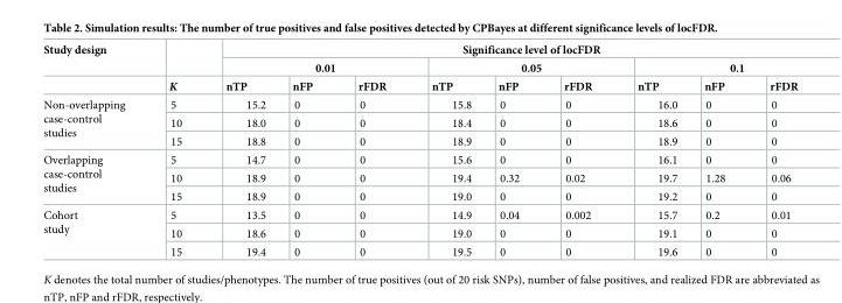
<table><thead><tr><td rowspan="3">Study design</td><td rowspan="3">K</td><td colspan="9">Significance level of locFDR</td></tr><tr><td colspan="3">0.01</td><td colspan="3">0.05</td><td colspan="3">0.1</td></tr><tr><td>nTP</td><td>nFP</td><td>rFDR</td><td>nTP</td><td>nFP</td><td>rFDR</td><td>nTP</td><td>nFP</td><td>rFDR</td></tr></thead><tbody><tr><td rowspan="3">Non-overlapping case-control studies</td><td>5</td><td>15.2</td><td>0</td><td>0</td><td>15.8</td><td>0</td><td>0</td><td>16.0</td><td>0</td><td>0</td></tr><tr><td>10</td><td>18.0</td><td>0</td><td>0</td><td>18.4</td><td>0</td><td>0</td><td>18.6</td><td>0</td><td>0</td></tr><tr><td>15</td><td>18.8</td><td>0</td><td>0</td><td>18.9</td><td>0</td><td>0</td><td>18.9</td><td>0</td><td>0</td></tr><tr><td rowspan="3">Overlapping case-control studies</td><td>5</td><td>14.7</td><td>0</td><td>0</td><td>15.6</td><td>0</td><td>0</td><td>16.1</td><td>0</td><td>0</td></tr><tr><td>10</td><td>18.9</td><td>0</td><td>0</td><td>19.4</td><td>0.32</td><td>0.02</td><td>19.7</td><td>1.28</td><td>0.06</td></tr><tr><td>15</td><td>18.9</td><td>0</td><td>0</td><td>19.0</td><td>0</td><td>0</td><td>19.2</td><td>0</td><td>0</td></tr><tr><td rowspan="3">Cohort study</td><td>5</td><td>13.5</td><td>0</td><td>0</td><td>14.9</td><td>0.04</td><td>0.002</td><td>15.7</td><td>0.2</td><td>0.01</td></tr><tr><td>10</td><td>18.6</td><td>0</td><td>0</td><td>19.0</td><td>0</td><td>0</td><td>19.1</td><td>0</td><td>0</td></tr><tr><td>15</td><td>19.4</td><td>0</td><td>0</td><td>19.5</td><td>0</td><td>0</td><td>19.6</td><td>0</td><td>0</td></tr></tbody></table>